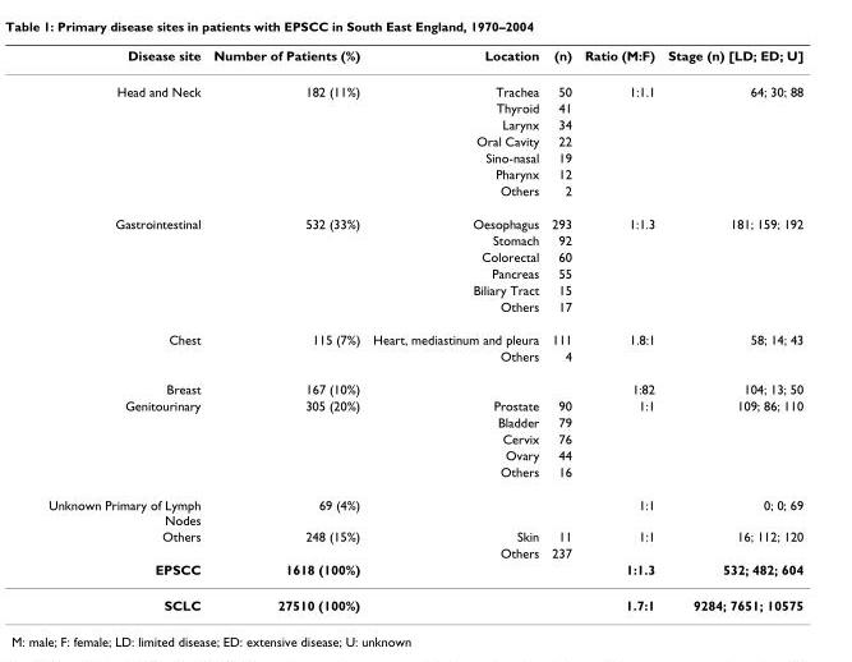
<table><thead><tr><td>Disease site</td><td>Number of Patients (%)</td><td>Location</td><td>(n)</td><td>Ratio (M:F)</td><td>Stage (n) [LD; ED; U]</td></tr></thead><tbody><tr><td rowspan="7">Head and Neck</td><td>182 (11%)</td><td>Trachea</td><td>50</td><td>1:1.1</td><td>64; 30; 88</td></tr><tr><td></td><td>Thyroid</td><td>41</td><td></td><td></td></tr><tr><td></td><td>Larynx</td><td>34</td><td></td><td></td></tr><tr><td></td><td>Oral Cavity</td><td>22</td><td></td><td></td></tr><tr><td></td><td>Sino-nasal</td><td>19</td><td></td><td></td></tr><tr><td></td><td>Pharynx</td><td>12</td><td></td><td></td></tr><tr><td></td><td>Others</td><td>2</td><td></td><td></td></tr><tr><td rowspan="6">Gastrointestinal</td><td>532 (33%)</td><td>Oesophagus</td><td>293</td><td>1:1.3</td><td>181; 159; 192</td></tr><tr><td></td><td>Stomach</td><td>92</td><td></td><td></td></tr><tr><td></td><td>Colorectal</td><td>60</td><td></td><td></td></tr><tr><td></td><td>Pancreas</td><td>55</td><td></td><td></td></tr><tr><td></td><td>Biliary Tract</td><td>15</td><td></td><td></td></tr><tr><td></td><td>Others</td><td>17</td><td></td><td></td></tr><tr><td rowspan="2">Chest</td><td>115 (7%)</td><td>Heart, mediastinum and pleura</td><td>111</td><td>1.8:1</td><td>58; 14; 43</td></tr><tr><td></td><td>Others</td><td>4</td><td></td><td></td></tr><tr><td>Breast</td><td>167 (10%)</td><td></td><td></td><td>1:82</td><td>104; 13; 50</td></tr><tr><td rowspan="5">Genitourinary</td><td>305 (20%)</td><td>Prostate</td><td>90</td><td>1:1</td><td>109; 86; 110</td></tr><tr><td></td><td>Bladder</td><td>79</td><td></td><td></td></tr><tr><td></td><td>Cervix</td><td>76</td><td></td><td></td></tr><tr><td></td><td>Ovary</td><td>44</td><td></td><td></td></tr><tr><td></td><td>Others</td><td>16</td><td></td><td></td></tr><tr><td>Unknown Primary of Lymph Nodes</td><td>69 (4%)</td><td></td><td></td><td>1:1</td><td>0; 0; 69</td></tr><tr><td rowspan="2">Others</td><td>248 (15%)</td><td>Skin</td><td>11</td><td>1:1</td><td>16; 112; 120</td></tr><tr><td></td><td>Others</td><td>237</td><td></td><td></td></tr><tr><td>EPSCC</td><td>1618 (100%)</td><td></td><td></td><td>1:1.3</td><td>532; 482; 604</td></tr><tr><td>SCLC</td><td>27510 (100%)</td><td></td><td></td><td>1.7:1</td><td>9284; 7651; 10575</td></tr></tbody></table>